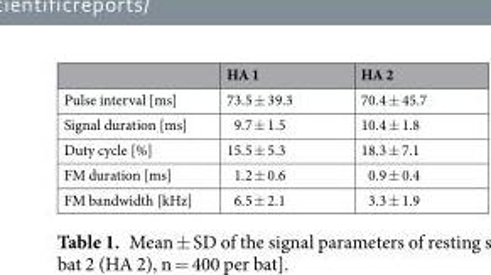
<table><thead><tr><td></td><td>HA 1</td><td>HA 2</td></tr></thead><tbody><tr><td>Pulse interval [ms]</td><td>73.5 ± 39.3</td><td>70.4 ± 45.7</td></tr><tr><td>Signal duration [ms]</td><td>9.7 ± 1.5</td><td>10.4 ± 1.8</td></tr><tr><td>Duty cycle [%]</td><td>15.5 ± 5.3</td><td>18.3 ± 7.1</td></tr><tr><td>FM duration [ms]</td><td>1.2 ± 0.6</td><td>0.9 ± 0.4</td></tr><tr><td>FM bandwidth [kHz]</td><td>6.5 ± 2.1</td><td>3.3 ± 1.9</td></tr></tbody></table>